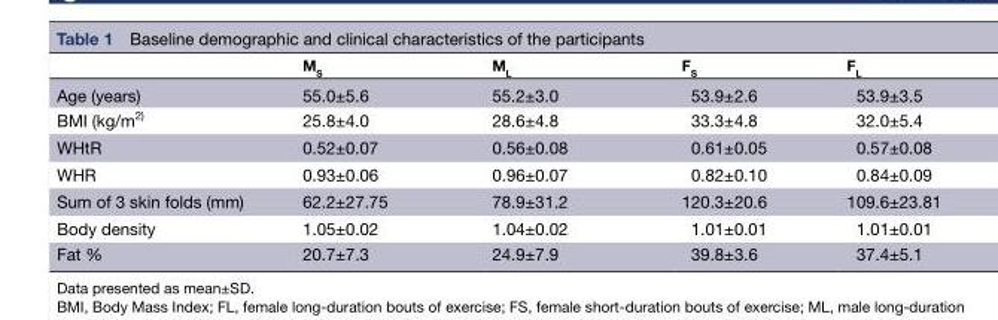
<table><thead><tr><td></td><td>M<sub>S</sub></td><td>M<sub>L</sub></td><td>F<sub>S</sub></td><td>F<sub>L</sub></td></tr></thead><tbody><tr><td>Age (years)</td><td>55.0±5.6</td><td>55.2±3.0</td><td>53.9±2.6</td><td>53.9±3.5</td></tr><tr><td>BMI (kg/m<sup>2)</sup></td><td>25.8±4.0</td><td>28.6±4.8</td><td>33.3±4.8</td><td>32.0±5.4</td></tr><tr><td>WHtR</td><td>0.52±0.07</td><td>0.56±0.08</td><td>0.61±0.05</td><td>0.57±0.08</td></tr><tr><td>WHR</td><td>0.93±0.06</td><td>0.96±0.07</td><td>0.82±0.10</td><td>0.84±0.09</td></tr><tr><td>Sum of 3 skin folds (mm)</td><td>62.2±27.75</td><td>78.9±31.2</td><td>120.3±20.6</td><td>109.6±23.81</td></tr><tr><td>Body density</td><td>1.05±0.02</td><td>1.04±0.02</td><td>1.01±0.01</td><td>1.01±0.01</td></tr><tr><td>Fat %</td><td>20.7±7.3</td><td>24.9±7.9</td><td>39.8±3.6</td><td>37.4±5.1</td></tr></tbody></table>